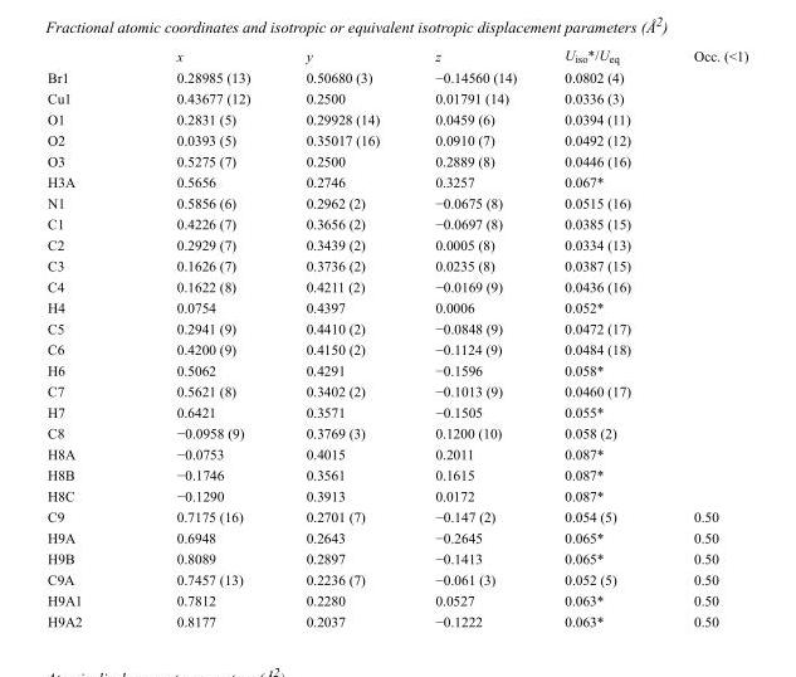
<table><thead><tr><td></td><td>x</td><td>y</td><td>z</td><td>U<sub>iso</sub>*/U<sub>eq</sub></td><td>Occ. (&lt;1)</td></tr></thead><tbody><tr><td>Br1</td><td>0.28985 (13)</td><td>0.50680 (3)</td><td>−0.14560 (14)</td><td>0.0802 (4)</td><td></td></tr><tr><td>Cu1</td><td>0.43677 (12)</td><td>0.2500</td><td>0.01791 (14)</td><td>0.0336 (3)</td><td></td></tr><tr><td>O1</td><td>0.2831 (5)</td><td>0.29928 (14)</td><td>0.0459 (6)</td><td>0.0394 (11)</td><td></td></tr><tr><td>O2</td><td>0.0393 (5)</td><td>0.35017 (16)</td><td>0.0910 (7)</td><td>0.0492 (12)</td><td></td></tr><tr><td>O3</td><td>0.5275 (7)</td><td>0.2500</td><td>0.2889 (8)</td><td>0.0446 (16)</td><td></td></tr><tr><td>H3A</td><td>0.5656</td><td>0.2746</td><td>0.3257</td><td>0.067*</td><td></td></tr><tr><td>N1</td><td>0.5856 (6)</td><td>0.2962 (2)</td><td>−0.0675 (8)</td><td>0.0515 (16)</td><td></td></tr><tr><td>C1</td><td>0.4226 (7)</td><td>0.3656 (2)</td><td>−0.0697 (8)</td><td>0.0385 (15)</td><td></td></tr><tr><td>C2</td><td>0.2929 (7)</td><td>0.3439 (2)</td><td>0.0005 (8)</td><td>0.0334 (13)</td><td></td></tr><tr><td>C3</td><td>0.1626 (7)</td><td>0.3736 (2)</td><td>0.0235 (8)</td><td>0.0387 (15)</td><td></td></tr><tr><td>C4</td><td>0.1622 (8)</td><td>0.4211 (2)</td><td>−0.0169 (9)</td><td>0.0436 (16)</td><td></td></tr><tr><td>H4</td><td>0.0754</td><td>0.4397</td><td>0.0006</td><td>0.052*</td><td></td></tr><tr><td>C5</td><td>0.2941 (9)</td><td>0.4410 (2)</td><td>−0.0848 (9)</td><td>0.0472 (17)</td><td></td></tr><tr><td>C6</td><td>0.4200 (9)</td><td>0.4150 (2)</td><td>−0.1124 (9)</td><td>0.0484 (18)</td><td></td></tr><tr><td>H6</td><td>0.5062</td><td>0.4291</td><td>−0.1596</td><td>0.058*</td><td></td></tr><tr><td>C7</td><td>0.5621 (8)</td><td>0.3402 (2)</td><td>−0.1013 (9)</td><td>0.0460 (17)</td><td></td></tr><tr><td>H7</td><td>0.6421</td><td>0.3571</td><td>−0.1505</td><td>0.055*</td><td></td></tr><tr><td>C8</td><td>−0.0958 (9)</td><td>0.3769 (3)</td><td>0.1200 (10)</td><td>0.058 (2)</td><td></td></tr><tr><td>H8A</td><td>−0.0753</td><td>0.4015</td><td>0.2011</td><td>0.087*</td><td></td></tr><tr><td>H8B</td><td>−0.1746</td><td>0.3561</td><td>0.1615</td><td>0.087*</td><td></td></tr><tr><td>H8C</td><td>−0.1290</td><td>0.3913</td><td>0.0172</td><td>0.087*</td><td></td></tr><tr><td>C9</td><td>0.7175 (16)</td><td>0.2701 (7)</td><td>−0.147 (2)</td><td>0.054 (5)</td><td>0.50</td></tr><tr><td>H9A</td><td>0.6948</td><td>0.2643</td><td>−0.2645</td><td>0.065*</td><td>0.50</td></tr><tr><td>H9B</td><td>0.8089</td><td>0.2897</td><td>−0.1413</td><td>0.065*</td><td>0.50</td></tr><tr><td>C9A</td><td>0.7457 (13)</td><td>0.2236 (7)</td><td>−0.061 (3)</td><td>0.052 (5)</td><td>0.50</td></tr><tr><td>H9A1</td><td>0.7812</td><td>0.2280</td><td>0.0527</td><td>0.063*</td><td>0.50</td></tr><tr><td>H9A2</td><td>0.8177</td><td>0.2037</td><td>−0.1222</td><td>0.063*</td><td>0.50</td></tr></tbody></table>